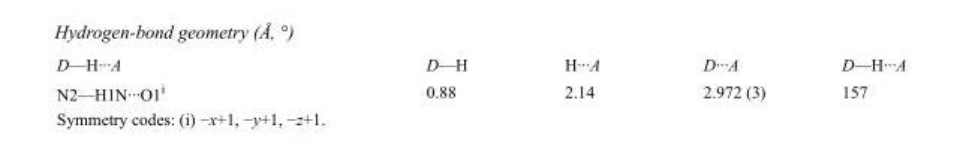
<table><tbody><tr><td>D—H···A</td><td>D—H</td><td>H···A</td><td>D···A</td><td>D—H···A</td></tr><tr><td>N2—H1N···O1<sup>i</sup></td><td>0.88</td><td>2.14</td><td>2.972 (3)</td><td>157</td></tr></tbody></table>